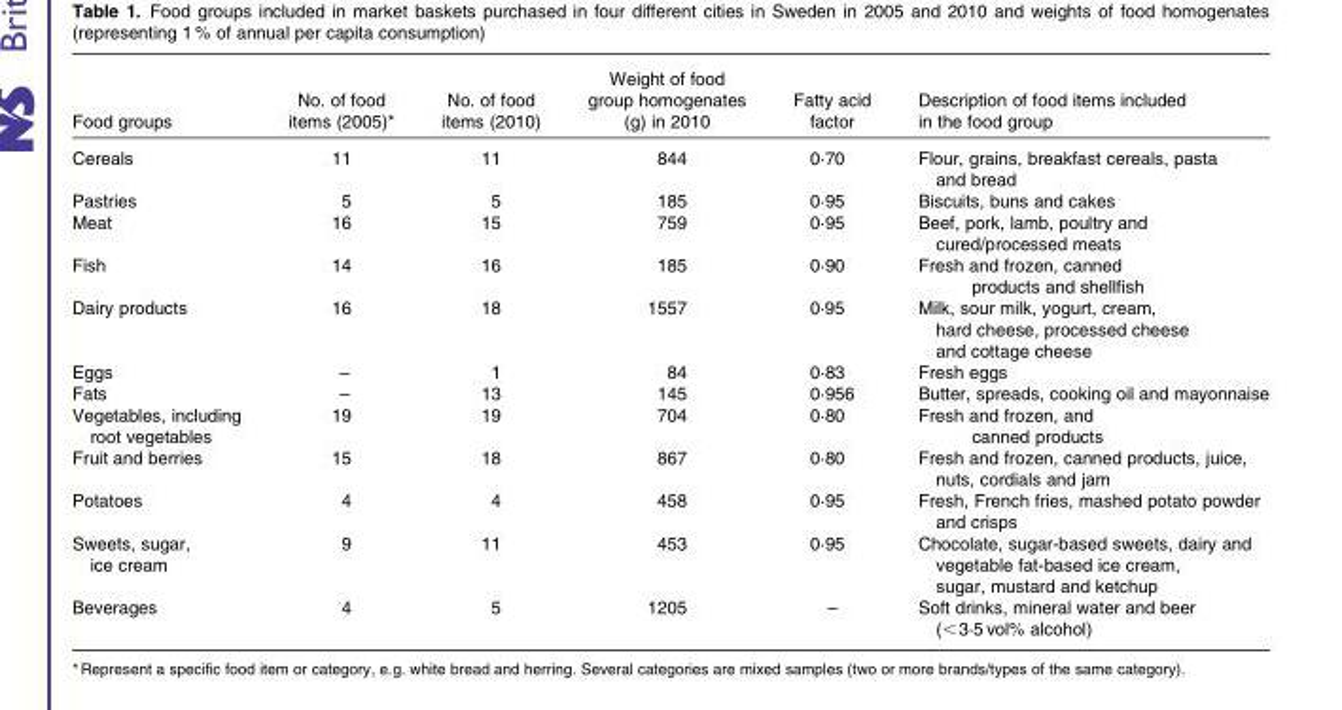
<table><thead><tr><td>Food groups</td><td>No. of food items (2005)*</td><td>No. of food items (2010)</td><td>Weight of food group homogenates (g) in 2010</td><td>Fatty acid factor</td><td>Description of food items included in the food group</td></tr></thead><tbody><tr><td>Cereals</td><td>11</td><td>11</td><td>844</td><td>0·70</td><td>Flour, grains, breakfast cereals, pasta and bread</td></tr><tr><td>Pastries</td><td>5</td><td>5</td><td>185</td><td>0·95</td><td>Biscuits, buns and cakes</td></tr><tr><td>Meat</td><td>16</td><td>15</td><td>759</td><td>0·95</td><td>Beef, pork, lamb, poultry and cured/processed meats</td></tr><tr><td>Fish</td><td>14</td><td>16</td><td>185</td><td>0·90</td><td>Fresh and frozen, canned products and shellfish</td></tr><tr><td>Dairy products</td><td>16</td><td>18</td><td>1557</td><td>0·95</td><td>Milk, sour milk, yogurt, cream, hard cheese, processed cheese and cottage cheese</td></tr><tr><td>Eggs</td><td>–</td><td>1</td><td>84</td><td>0·83</td><td>Fresh eggs</td></tr><tr><td>Fats</td><td>–</td><td>13</td><td>145</td><td>0·956</td><td>Butter, spreads, cooking oil and mayonnaise</td></tr><tr><td>Vegetables, including root vegetables</td><td>19</td><td>19</td><td>704</td><td>0·80</td><td>Fresh and frozen, and canned products</td></tr><tr><td>Fruit and berries</td><td>15</td><td>18</td><td>867</td><td>0·80</td><td>Fresh and frozen, canned products, juice, nuts, cordials and jam</td></tr><tr><td>Potatoes</td><td>4</td><td>4</td><td>458</td><td>0·95</td><td>Fresh, French fries, mashed potato powder and crisps</td></tr><tr><td>Sweets, sugar, ice cream</td><td>9</td><td>11</td><td>453</td><td>0·95</td><td>Chocolate, sugar-based sweets, dairy and vegetable fat-based ice cream, sugar, mustard and ketchup</td></tr><tr><td>Beverages</td><td>4</td><td>5</td><td>1205</td><td>–</td><td>Soft drinks, mineral water and beer (&lt;3·5 vol% alcohol)</td></tr></tbody></table>